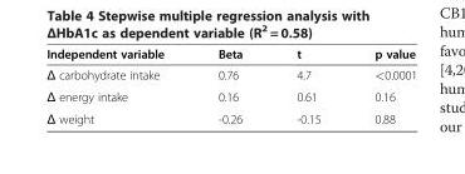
<table><thead><tr><td>Independent variable</td><td>Beta</td><td>t</td><td>p value</td></tr></thead><tbody><tr><td>Δ carbohydrate intake</td><td>0.76</td><td>4.7</td><td>&lt;0.0001</td></tr><tr><td>Δ energy intake</td><td>0.16</td><td>0.61</td><td>0.16</td></tr><tr><td>Δ weight</td><td>-0.26</td><td>-0.15</td><td>0.88</td></tr></tbody></table>